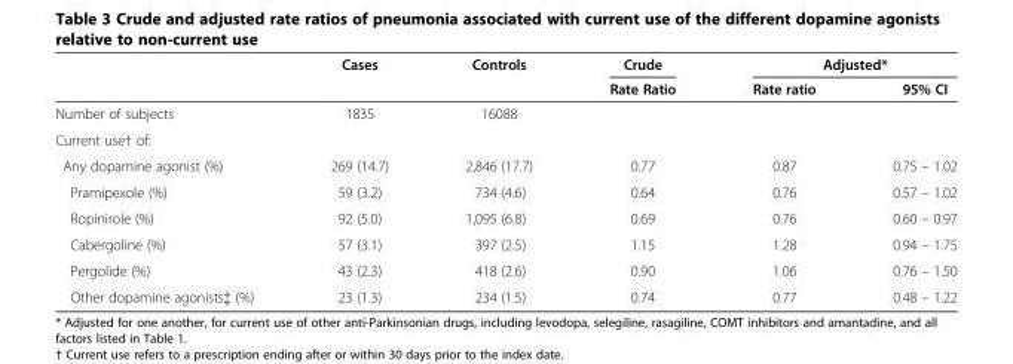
<table><thead><tr><td rowspan="2"></td><td rowspan="2">Cases</td><td rowspan="2">Controls</td><td rowspan="2">Crude Rate Ratio</td><td colspan="2">Adjusted*</td></tr><tr><td>Rate ratio</td><td>95% CI</td></tr></thead><tbody><tr><td>Number of subjects</td><td>1835</td><td>16088</td><td></td><td></td><td></td></tr><tr><td colspan="6">Current use† of:</td></tr><tr><td>Any dopamine agonist (%)</td><td>269 (14.7)</td><td>2,846 (17.7)</td><td>0.77</td><td>0.87</td><td>0.75 – 1.02</td></tr><tr><td>Pramipexole (%)</td><td>59 (3.2)</td><td>734 (4.6)</td><td>0.64</td><td>0.76</td><td>0.57 – 1.02</td></tr><tr><td>Ropinirole (%)</td><td>92 (5.0)</td><td>1,095 (6.8)</td><td>0.69</td><td>0.76</td><td>0.60 – 0.97</td></tr><tr><td>Cabergoline (%)</td><td>57 (3.1)</td><td>397 (2.5)</td><td>1.15</td><td>1.28</td><td>0.94 – 1.75</td></tr><tr><td>Pergolide (%)</td><td>43 (2.3)</td><td>418 (2.6)</td><td>0.90</td><td>1.06</td><td>0.76 – 1.50</td></tr><tr><td>Other dopamine agonists‡ (%)</td><td>23 (1.3)</td><td>234 (1.5)</td><td>0.74</td><td>0.77</td><td>0.48 – 1.22</td></tr></tbody></table>